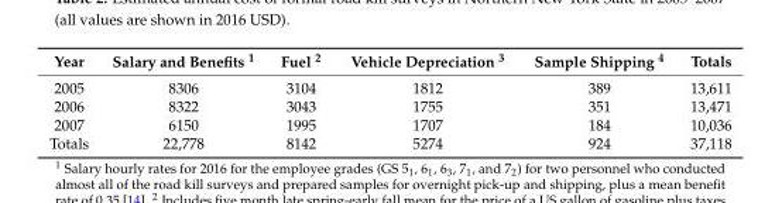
<table><thead><tr><td>Year</td><td>Salary and Benefits <sup>1</sup></td><td>Fuel <sup>2</sup></td><td>Vehicle Depreciation <sup>3</sup></td><td>Sample Shipping <sup>4</sup></td><td>Totals</td></tr></thead><tbody><tr><td>2005</td><td>8306</td><td>3104</td><td>1812</td><td>389</td><td>13,611</td></tr><tr><td>2006</td><td>8322</td><td>3043</td><td>1755</td><td>351</td><td>13,471</td></tr><tr><td>2007</td><td>6150</td><td>1995</td><td>1707</td><td>184</td><td>10,036</td></tr><tr><td>Totals</td><td>22,778</td><td>8142</td><td>5274</td><td>924</td><td>37,118</td></tr></tbody></table>